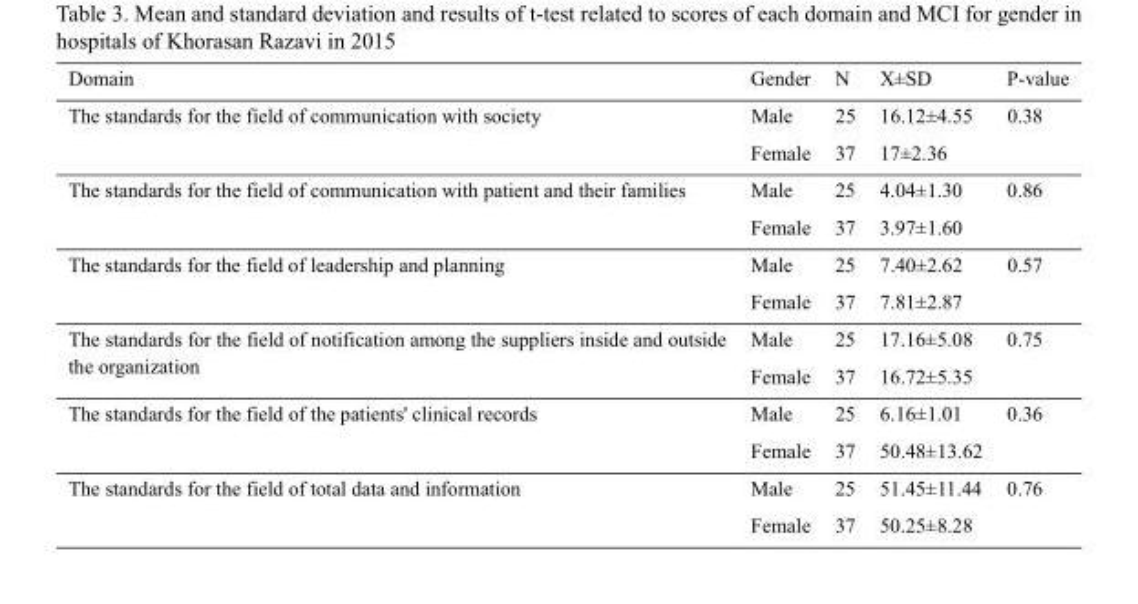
<table><thead><tr><td>Domain</td><td>Gender</td><td>N</td><td>X±SD</td><td>P-value</td></tr></thead><tbody><tr><td rowspan="2">The standards for the field of communication with society</td><td>Male</td><td>25</td><td>16.12±4.55</td><td rowspan="2">0.38</td></tr><tr><td>Female</td><td>37</td><td>17±2.36</td></tr><tr><td rowspan="2">The standards for the field of communication with patient and their families</td><td>Male</td><td>25</td><td>4.04±1.30</td><td rowspan="2">0.86</td></tr><tr><td>Female</td><td>37</td><td>3.97±1.60</td></tr><tr><td rowspan="2">The standards for the field of leadership and planning</td><td>Male</td><td>25</td><td>7.40±2.62</td><td rowspan="2">0.57</td></tr><tr><td>Female</td><td>37</td><td>7.81±2.87</td></tr><tr><td rowspan="2">The standards for the field of notification among the suppliers inside and outside the organization</td><td>Male</td><td>25</td><td>17.16±5.08</td><td rowspan="2">0.75</td></tr><tr><td>Female</td><td>37</td><td>16.72±5.35</td></tr><tr><td rowspan="2">The standards for the field of the patients&#x27; clinical records</td><td>Male</td><td>25</td><td>6.16±1.01</td><td rowspan="2">0.36</td></tr><tr><td>Female</td><td>37</td><td>50.48±13.62</td></tr><tr><td rowspan="2">The standards for the field of total data and information</td><td>Male</td><td>25</td><td>51.45±11.44</td><td rowspan="2">0.76</td></tr><tr><td>Female</td><td>37</td><td>50.25±8.28</td></tr></tbody></table>